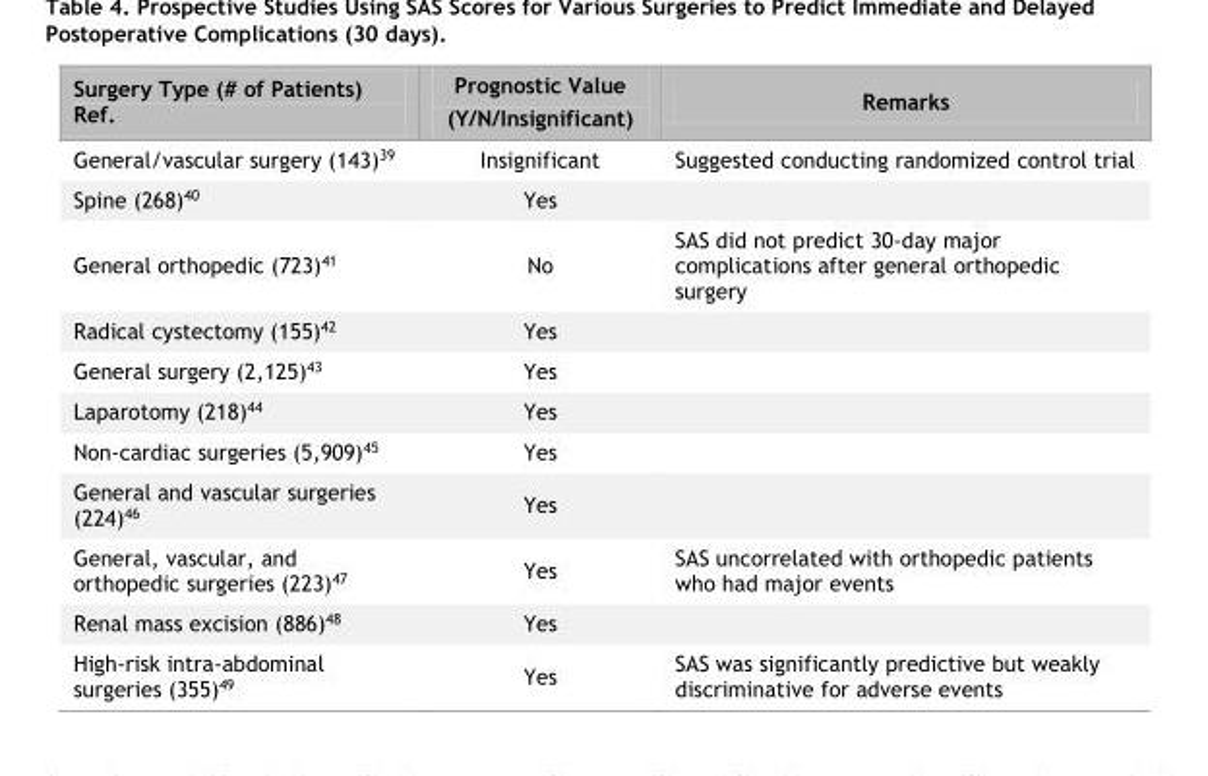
<table><thead><tr><td>Surgery Type (# of Patients) Ref.</td><td>Prognostic Value (Y/N/Insignificant)</td><td>Remarks</td></tr></thead><tbody><tr><td>General/vascular surgery (143)<sup>39</sup></td><td>Insignificant</td><td>Suggested conducting randomized control trial</td></tr><tr><td>Spine (268)<sup>40</sup></td><td>Yes</td><td></td></tr><tr><td>General orthopedic (723)<sup>41</sup></td><td>No</td><td>SAS did not predict 30-day major complications after general orthopedic surgery</td></tr><tr><td>Radical cystectomy (155)<sup>42</sup></td><td>Yes</td><td></td></tr><tr><td>General surgery (2,125)<sup>43</sup></td><td>Yes</td><td></td></tr><tr><td>Laparotomy (218)<sup>44</sup></td><td>Yes</td><td></td></tr><tr><td>Non-cardiac surgeries (5,909)<sup>45</sup></td><td>Yes</td><td></td></tr><tr><td>General and vascular surgeries (224)<sup>46</sup></td><td>Yes</td><td></td></tr><tr><td>General, vascular, and orthopedic surgeries (223)<sup>47</sup></td><td>Yes</td><td>SAS uncorrelated with orthopedic patients who had major events</td></tr><tr><td>Renal mass excision (886)<sup>48</sup></td><td>Yes</td><td></td></tr><tr><td>High-risk intra-abdominal surgeries (355)<sup>49</sup></td><td>Yes</td><td>SAS was significantly predictive but weakly discriminative for adverse events</td></tr></tbody></table>